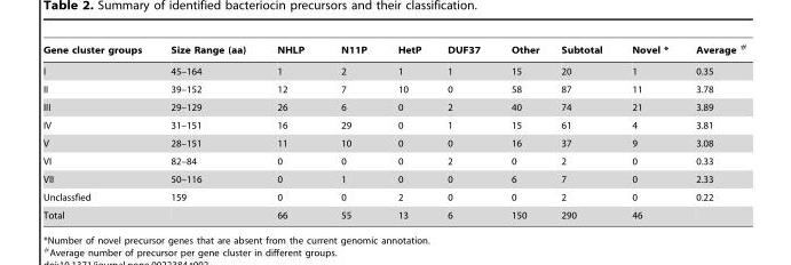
<table><thead><tr><td>Gene cluster groups</td><td>Size Range (aa)</td><td>NHLP</td><td>N11P</td><td>HetP</td><td>DUF37</td><td>Other</td><td>Subtotal</td><td>Novel *</td><td>Average #</td></tr></thead><tbody><tr><td>I</td><td>45–164</td><td>1</td><td>2</td><td>1</td><td>1</td><td>15</td><td>20</td><td>1</td><td>0.35</td></tr><tr><td>II</td><td>39–152</td><td>12</td><td>7</td><td>10</td><td>0</td><td>58</td><td>87</td><td>11</td><td>3.78</td></tr><tr><td>III</td><td>29–129</td><td>26</td><td>6</td><td>0</td><td>2</td><td>40</td><td>74</td><td>21</td><td>3.89</td></tr><tr><td>IV</td><td>31–151</td><td>16</td><td>29</td><td>0</td><td>1</td><td>15</td><td>61</td><td>4</td><td>3.81</td></tr><tr><td>V</td><td>28–151</td><td>11</td><td>10</td><td>0</td><td>0</td><td>16</td><td>37</td><td>9</td><td>3.08</td></tr><tr><td>VI</td><td>82–84</td><td>0</td><td>0</td><td>0</td><td>2</td><td>0</td><td>2</td><td>0</td><td>0.33</td></tr><tr><td>VII</td><td>50–116</td><td>0</td><td>1</td><td>0</td><td>0</td><td>6</td><td>7</td><td>0</td><td>2.33</td></tr><tr><td>Unclassfied</td><td>159</td><td>0</td><td>0</td><td>2</td><td>0</td><td>0</td><td>2</td><td>0</td><td>0.22</td></tr><tr><td>Total</td><td></td><td>66</td><td>55</td><td>13</td><td>6</td><td>150</td><td>290</td><td>46</td><td></td></tr></tbody></table>